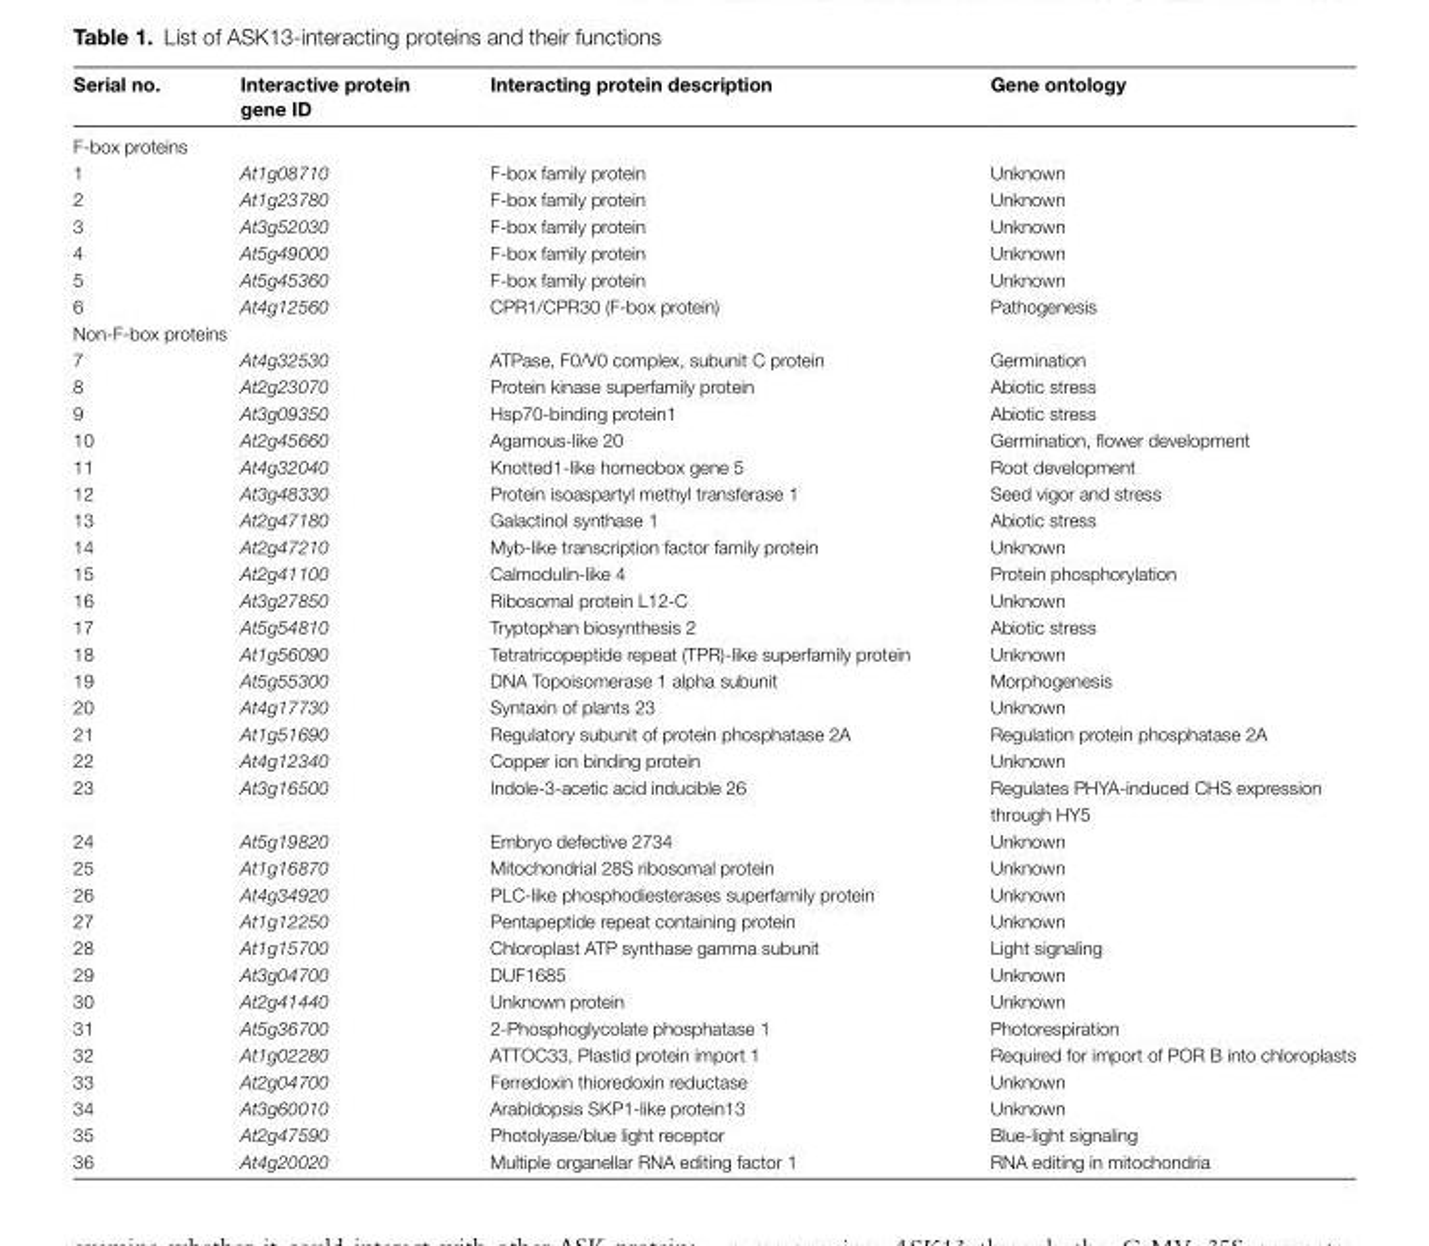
<table><thead><tr><td>Serial no.</td><td>Interactive protein gene ID</td><td>Interacting protein description</td><td>Gene ontology</td></tr></thead><tbody><tr><td colspan="4">F-box proteins</td></tr><tr><td>1</td><td>At1g08710</td><td>F-box family protein</td><td>Unknown</td></tr><tr><td>2</td><td>At1g23780</td><td>F-box family protein</td><td>Unknown</td></tr><tr><td>3</td><td>At3g52030</td><td>F-box family protein</td><td>Unknown</td></tr><tr><td>4</td><td>At5g49000</td><td>F-box family protein</td><td>Unknown</td></tr><tr><td>5</td><td>At5g45360</td><td>F-box family protein</td><td>Unknown</td></tr><tr><td>6</td><td>At4g12560</td><td>CPR1/CPR30 (F-box protein)</td><td>Pathogenesis</td></tr><tr><td colspan="4">Non-F-box proteins</td></tr><tr><td>7</td><td>At4g32530</td><td>ATPase, F0/V0 complex, subunit C protein</td><td>Germination</td></tr><tr><td>8</td><td>At2g23070</td><td>Protein kinase superfamily protein</td><td>Abiotic stress</td></tr><tr><td>9</td><td>At3g09350</td><td>Hsp70-binding protein1</td><td>Abiotic stress</td></tr><tr><td>10</td><td>At2g45660</td><td>Agamous-like 20</td><td>Germination, flower development</td></tr><tr><td>11</td><td>At4g32040</td><td>Knotted1-like homeobox gene 5</td><td>Root development</td></tr><tr><td>12</td><td>At3g48330</td><td>Protein isoaspartyl methyl transferase 1</td><td>Seed vigor and stress</td></tr><tr><td>13</td><td>At2g47180</td><td>Galactinol synthase 1</td><td>Abiotic stress</td></tr><tr><td>14</td><td>At2g47210</td><td>Myb-like transcription factor family protein</td><td>Unknown</td></tr><tr><td>15</td><td>At2g41100</td><td>Calmodulin-like 4</td><td>Protein phosphorylation</td></tr><tr><td>16</td><td>At3g27850</td><td>Ribosomal protein L12-C</td><td>Unknown</td></tr><tr><td>17</td><td>At5g54810</td><td>Tryptophan biosynthesis 2</td><td>Abiotic stress</td></tr><tr><td>18</td><td>At1g56090</td><td>Tetratricopeptide repeat (TPR)-like superfamily protein</td><td>Unknown</td></tr><tr><td>19</td><td>At5g55300</td><td>DNA Topoisomerase 1 alpha subunit</td><td>Morphogenesis</td></tr><tr><td>20</td><td>At4g17730</td><td>Syntaxin of plants 23</td><td>Unknown</td></tr><tr><td>21</td><td>At1g51690</td><td>Regulatory subunit of protein phosphatase 2A</td><td>Regulation protein phosphatase 2A</td></tr><tr><td>22</td><td>At4g12340</td><td>Copper ion binding protein</td><td>Unknown</td></tr><tr><td>23</td><td>At3g16500</td><td>Indole-3-acetic acid inducible 26</td><td>Regulates PHYA-induced CHS expression through HY5</td></tr><tr><td>24</td><td>At5g19820</td><td>Embryo defective 2734</td><td>Unknown</td></tr><tr><td>25</td><td>At1g16870</td><td>Mitochondrial 28S ribosomal protein</td><td>Unknown</td></tr><tr><td>26</td><td>At4g34920</td><td>PLC-like phosphodiesterases superfamily protein</td><td>Unknown</td></tr><tr><td>27</td><td>At1g12250</td><td>Pentapeptide repeat containing protein</td><td>Unknown</td></tr><tr><td>28</td><td>At1g15700</td><td>Chloroplast ATP synthase gamma subunit</td><td>Light signaling</td></tr><tr><td>29</td><td>At3g04700</td><td>DUF1685</td><td>Unknown</td></tr><tr><td>30</td><td>At2g41440</td><td>Unknown protein</td><td>Unknown</td></tr><tr><td>31</td><td>At5g36700</td><td>2-Phosphoglycolate phosphatase 1</td><td>Photorespiration</td></tr><tr><td>32</td><td>At1g02280</td><td>ATTOC33, Plastid protein import 1</td><td>Required for import of POR B into chloroplasts</td></tr><tr><td>33</td><td>At2g04700</td><td>Ferredoxin thioredoxin reductase</td><td>Unknown</td></tr><tr><td>34</td><td>At3g60010</td><td>Arabidopsis SKP1-like protein13</td><td>Unknown</td></tr><tr><td>35</td><td>At2g47590</td><td>Photolyase/blue light receptor</td><td>Blue-light signaling</td></tr><tr><td>36</td><td>At4g20020</td><td>Multiple organellar RNA editing factor 1</td><td>RNA editing in mitochondria</td></tr></tbody></table>